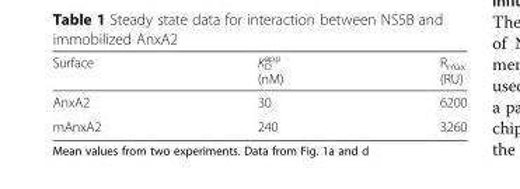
<table><thead><tr><td>Surface</td><td>K<sub>D</sub> <sup>app</sup> (nM)</td><td>R<sub>max</sub> (RU)</td></tr></thead><tbody><tr><td>AnxA2</td><td>30</td><td>6200</td></tr><tr><td>mAnxA2</td><td>240</td><td>3260</td></tr></tbody></table>